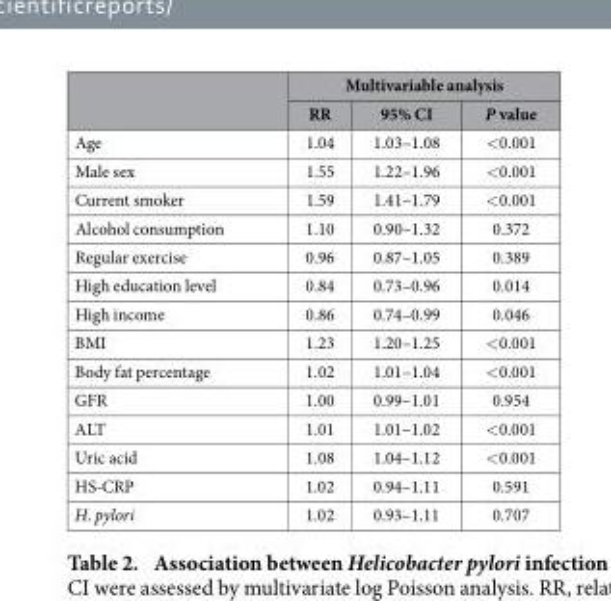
<table><thead><tr><td rowspan="2"></td><td colspan="3">Multivariable analysis</td></tr><tr><td>RR</td><td>95% CI</td><td>P value</td></tr></thead><tbody><tr><td>Age</td><td>1.04</td><td>1.03–1.08</td><td>&lt; 0.001</td></tr><tr><td>Male sex</td><td>1.55</td><td>1.22–1.96</td><td>&lt; 0.001</td></tr><tr><td>Current smoker</td><td>1.59</td><td>1.41–1.79</td><td>&lt; 0.001</td></tr><tr><td>Alcohol consumption</td><td>1.10</td><td>0.90–1.32</td><td>0.372</td></tr><tr><td>Regular exercise</td><td>0.96</td><td>0.87–1.05</td><td>0.389</td></tr><tr><td>High education level</td><td>0.84</td><td>0.73–0.96</td><td>0.014</td></tr><tr><td>High income</td><td>0.86</td><td>0.74–0.99</td><td>0.046</td></tr><tr><td>BMI</td><td>1.23</td><td>1.20–1.25</td><td>&lt; 0.001</td></tr><tr><td>Body fat percentage</td><td>1.02</td><td>1.01–1.04</td><td>&lt; 0.001</td></tr><tr><td>GFR</td><td>1.00</td><td>0.99–1.01</td><td>0.954</td></tr><tr><td>ALT</td><td>1.01</td><td>1.01–1.02</td><td>&lt; 0.001</td></tr><tr><td>Uric acid</td><td>1.08</td><td>1.04–1.12</td><td>&lt; 0.001</td></tr><tr><td>HS-CRP</td><td>1.02</td><td>0.94–1.11</td><td>0.591</td></tr><tr><td>H. pylori</td><td>1.02</td><td>0.93–1.11</td><td>0.707</td></tr></tbody></table>